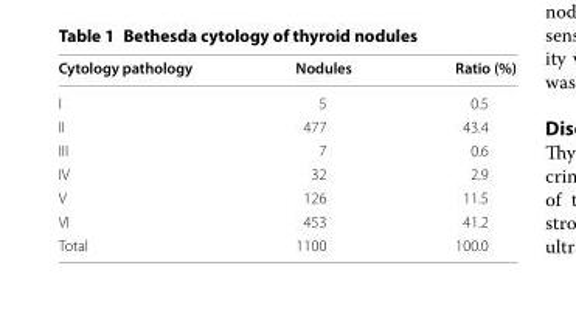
<table><thead><tr><td>Cytology pathology</td><td>Nodules</td><td>Ratio (%)</td></tr></thead><tbody><tr><td>I</td><td>5</td><td>0.5</td></tr><tr><td>II</td><td>477</td><td>43.4</td></tr><tr><td>III</td><td>7</td><td>0.6</td></tr><tr><td>IV</td><td>32</td><td>2.9</td></tr><tr><td>V</td><td>126</td><td>11.5</td></tr><tr><td>VI</td><td>453</td><td>41.2</td></tr><tr><td>Total</td><td>1100</td><td>100.0</td></tr></tbody></table>